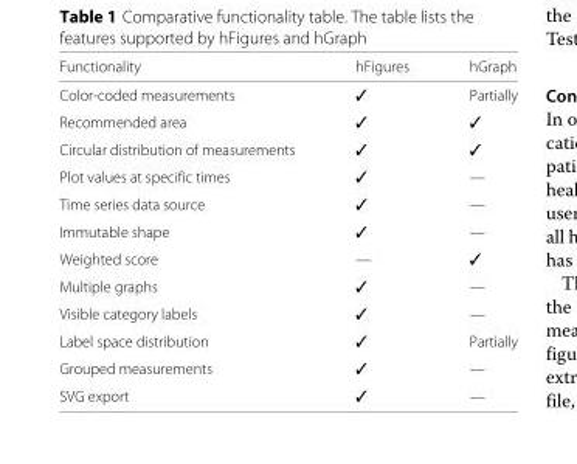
<table><thead><tr><td>Functionality</td><td>hFigures</td><td>hGraph</td></tr></thead><tbody><tr><td>Color-coded measurements</td><td>✓</td><td>Partially</td></tr><tr><td>Recommended area</td><td>✓</td><td>✓</td></tr><tr><td>Circular distribution of measurements</td><td>✓</td><td>✓</td></tr><tr><td>Plot values at specific times</td><td>✓</td><td>—</td></tr><tr><td>Time series data source</td><td>✓</td><td>—</td></tr><tr><td>Immutable shape</td><td>✓</td><td>—</td></tr><tr><td>Weighted score</td><td>—</td><td>✓</td></tr><tr><td>Multiple graphs</td><td>✓</td><td>—</td></tr><tr><td>Visible category labels</td><td>✓</td><td>—</td></tr><tr><td>Label space distribution</td><td>✓</td><td>Partially</td></tr><tr><td>Grouped measurements</td><td>✓</td><td>—</td></tr><tr><td>SVG export</td><td>✓</td><td>—</td></tr></tbody></table>